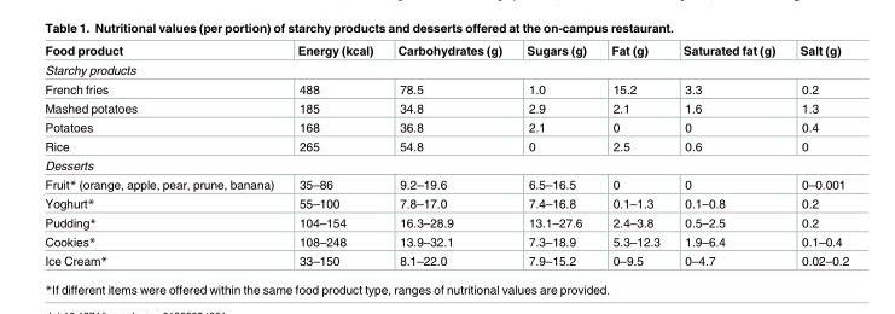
<table><thead><tr><td>Food product</td><td>Energy (kcal)</td><td>Carbohydrates (g)</td><td>Sugars (g)</td><td>Fat (g)</td><td>Saturated fat (g)</td><td>Salt (g)</td></tr></thead><tbody><tr><td colspan="7">Starchy products</td></tr><tr><td>French fries</td><td>488</td><td>78.5</td><td>1.0</td><td>15.2</td><td>3.3</td><td>0.2</td></tr><tr><td>Mashed potatoes</td><td>185</td><td>34.8</td><td>2.9</td><td>2.1</td><td>1.6</td><td>1.3</td></tr><tr><td>Potatoes</td><td>168</td><td>36.8</td><td>2.1</td><td>0</td><td>0</td><td>0.4</td></tr><tr><td>Rice</td><td>265</td><td>54.8</td><td>0</td><td>2.5</td><td>0.6</td><td>0</td></tr><tr><td colspan="7">Desserts</td></tr><tr><td>Fruit* (orange, apple, pear, prune, banana)</td><td>35–86</td><td>9.2–19.6</td><td>6.5–16.5</td><td>0</td><td>0</td><td>0–0.001</td></tr><tr><td>Yoghurt*</td><td>55–100</td><td>7.8–17.0</td><td>7.4–16.8</td><td>0.1–1.3</td><td>0.1–0.8</td><td>0.2</td></tr><tr><td>Pudding*</td><td>104–154</td><td>16.3–28.9</td><td>13.1–27.6</td><td>2.4–3.8</td><td>0.5–2.5</td><td>0.2</td></tr><tr><td>Cookies*</td><td>108–248</td><td>13.9–32.1</td><td>7.3–18.9</td><td>5.3–12.3</td><td>1.9–6.4</td><td>0.1–0.4</td></tr><tr><td>Ice Cream*</td><td>33–150</td><td>8.1–22.0</td><td>7.9–15.2</td><td>0–9.5</td><td>0–4.7</td><td>0.02–0.2</td></tr></tbody></table>